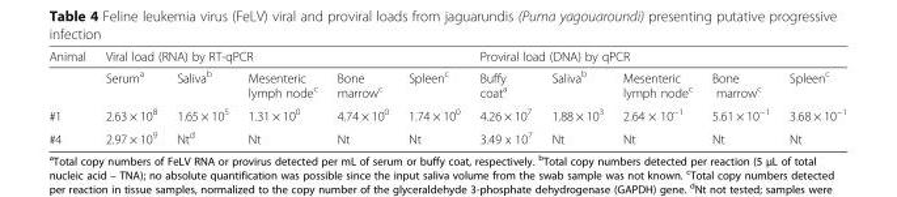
<table><thead><tr><td rowspan="2">Animal</td><td colspan="5">Viral load (RNA) by RT-qPCR</td><td colspan="5">Proviral load (DNA) by qPCR</td></tr><tr><td>Serum<sup>a</sup></td><td>Saliva<sup>b</sup></td><td>Mesenteric lymph node<sup>c</sup></td><td>Bone marrow<sup>c</sup></td><td>Spleen<sup>c</sup></td><td>Buffy coat<sup>a</sup></td><td>Saliva<sup>b</sup></td><td>Mesenteric lymph node<sup>c</sup></td><td>Bone marrow<sup>c</sup></td><td>Spleen<sup>c</sup></td></tr></thead><tbody><tr><td>#1</td><td>2.63 × 10<sup>8</sup></td><td>1.65 × 10<sup>5</sup></td><td>1.31 × 10<sup>0</sup></td><td>4.74 × 10<sup>0</sup></td><td>1.74 × 10<sup>0</sup></td><td>4.26 × 10<sup>7</sup></td><td>1.88 × 10<sup>3</sup></td><td>2.64 × 10<sup>−1</sup></td><td>5.61 × 10<sup>−1</sup></td><td>3.68 × 10<sup>−1</sup></td></tr><tr><td>#4</td><td>2.97 × 10<sup>9</sup></td><td>Nt<sup>d</sup></td><td>Nt</td><td>Nt</td><td>Nt</td><td>3.49 x 10<sup>7</sup></td><td>Nt</td><td>Nt</td><td>Nt</td><td>Nt</td></tr></tbody></table>